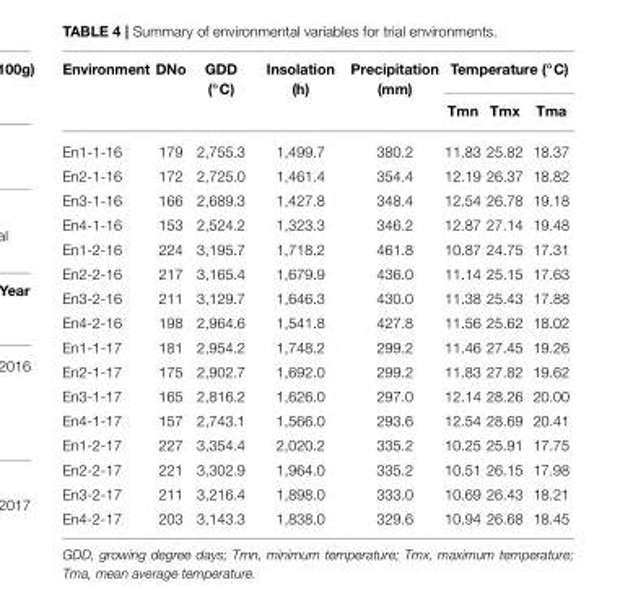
<table><thead><tr><td rowspan="2">Environment</td><td rowspan="2">DNo</td><td rowspan="2">GDD (◦C)</td><td rowspan="2">Insolation (h)</td><td rowspan="2">Precipitation (mm)</td><td colspan="3">Temperature (◦C)</td></tr><tr><td>Tmn</td><td>Tmx</td><td>Tma</td></tr></thead><tbody><tr><td>En1-1-16</td><td>179</td><td>2,755.3</td><td>1,499.7</td><td>380.2</td><td>11.83</td><td>25.82</td><td>18.37</td></tr><tr><td>En2-1-16</td><td>172</td><td>2,725.0</td><td>1,461.4</td><td>354.4</td><td>12.19</td><td>26.37</td><td>18.82</td></tr><tr><td>En3-1-16</td><td>166</td><td>2,689.3</td><td>1,427.8</td><td>348.4</td><td>12.54</td><td>26.78</td><td>19.18</td></tr><tr><td>En4-1-16</td><td>153</td><td>2,524.2</td><td>1,323.3</td><td>346.2</td><td>12.87</td><td>27.14</td><td>19.48</td></tr><tr><td>En1-2-16</td><td>224</td><td>3,195.7</td><td>1,718.2</td><td>461.8</td><td>10.87</td><td>24.75</td><td>17.31</td></tr><tr><td>En2-2-16</td><td>217</td><td>3,165.4</td><td>1,679.9</td><td>436.0</td><td>11.14</td><td>25.15</td><td>17.63</td></tr><tr><td>En3-2-16</td><td>211</td><td>3,129.7</td><td>1,646.3</td><td>430.0</td><td>11.38</td><td>25.43</td><td>17.88</td></tr><tr><td>En4-2-16</td><td>198</td><td>2,964.6</td><td>1,541.8</td><td>427.8</td><td>11.56</td><td>25.62</td><td>18.02</td></tr><tr><td>En1-1-17</td><td>181</td><td>2,954.2</td><td>1,748.2</td><td>299.2</td><td>11.46</td><td>27.45</td><td>19.26</td></tr><tr><td>En2-1-17</td><td>175</td><td>2,902.7</td><td>1,692.0</td><td>299.2</td><td>11.83</td><td>27.82</td><td>19.62</td></tr><tr><td>En3-1-17</td><td>165</td><td>2,816.2</td><td>1,626.0</td><td>297.0</td><td>12.14</td><td>28.26</td><td>20.00</td></tr><tr><td>En4-1-17</td><td>157</td><td>2,743.1</td><td>1,566.0</td><td>293.6</td><td>12.54</td><td>28.69</td><td>20.41</td></tr><tr><td>En1-2-17</td><td>227</td><td>3,354.4</td><td>2,020.2</td><td>335.2</td><td>10.25</td><td>25.91</td><td>17.75</td></tr><tr><td>En2-2-17</td><td>221</td><td>3,302.9</td><td>1,964.0</td><td>335.2</td><td>10.51</td><td>26.15</td><td>17.98</td></tr><tr><td>En3-2-17</td><td>211</td><td>3,216.4</td><td>1,898.0</td><td>333.0</td><td>10.69</td><td>26.43</td><td>18.21</td></tr><tr><td>En4-2-17</td><td>203</td><td>3,143.3</td><td>1,838.0</td><td>329.6</td><td>10.94</td><td>26.68</td><td>18.45</td></tr></tbody></table>